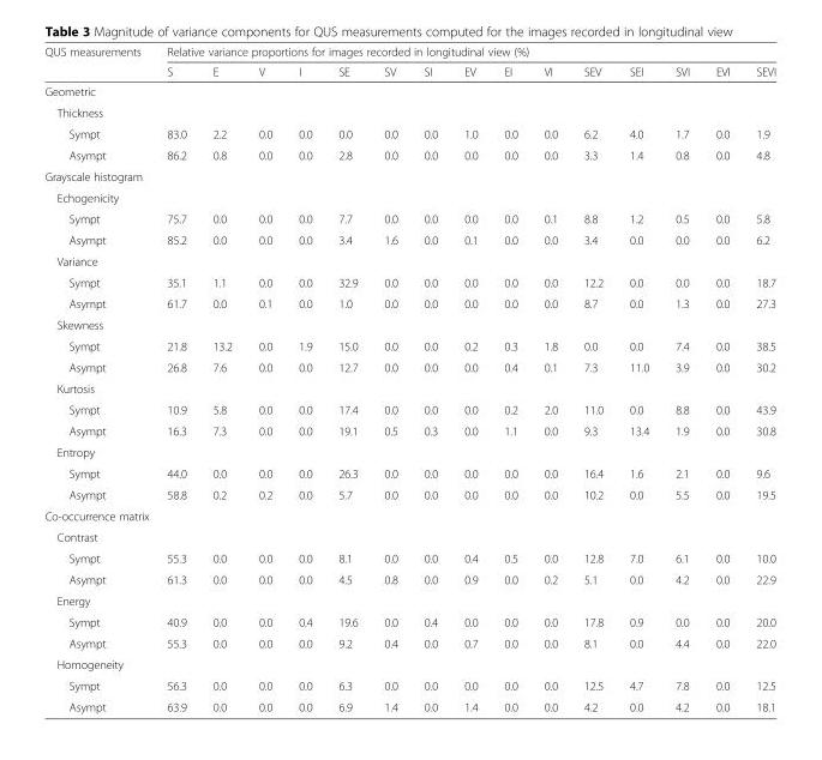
<table><thead><tr><td rowspan="2">QUS measurements</td><td colspan="15">Relative variance proportions for images recorded in longitudinal view (%)</td></tr><tr><td>S</td><td>E</td><td>V</td><td>I</td><td>SE</td><td>SV</td><td>SI</td><td>EV</td><td>EI</td><td>VI</td><td>SEV</td><td>SEI</td><td>SVI</td><td>EVI</td><td>SEVI</td></tr></thead><tbody><tr><td colspan="16">Geometric</td></tr><tr><td colspan="16">Thickness</td></tr><tr><td>Sympt</td><td>83.0</td><td>2.2</td><td>0.0</td><td>0.0</td><td>0.0</td><td>0.0</td><td>0.0</td><td>1.0</td><td>0.0</td><td>0.0</td><td>6.2</td><td>4.0</td><td>1.7</td><td>0.0</td><td>1.9</td></tr><tr><td>Asympt</td><td>86.2</td><td>0.8</td><td>0.0</td><td>0.0</td><td>2.8</td><td>0.0</td><td>0.0</td><td>0.0</td><td>0.0</td><td>0.0</td><td>3.3</td><td>1.4</td><td>0.8</td><td>0.0</td><td>4.8</td></tr><tr><td colspan="16">Grayscale histogram</td></tr><tr><td colspan="16">Echogenicity</td></tr><tr><td>Sympt</td><td>75.7</td><td>0.0</td><td>0.0</td><td>0.0</td><td>7.7</td><td>0.0</td><td>0.0</td><td>0.0</td><td>0.0</td><td>0.1</td><td>8.8</td><td>1.2</td><td>0.5</td><td>0.0</td><td>5.8</td></tr><tr><td>Asympt</td><td>85.2</td><td>0.0</td><td>0.0</td><td>0.0</td><td>3.4</td><td>1.6</td><td>0.0</td><td>0.1</td><td>0.0</td><td>0.0</td><td>3.4</td><td>0.0</td><td>0.0</td><td>0.0</td><td>6.2</td></tr><tr><td colspan="16">Variance</td></tr><tr><td>Sympt</td><td>35.1</td><td>1.1</td><td>0.0</td><td>0.0</td><td>32.9</td><td>0.0</td><td>0.0</td><td>0.0</td><td>0.0</td><td>0.0</td><td>12.2</td><td>0.0</td><td>0.0</td><td>0.0</td><td>18.7</td></tr><tr><td>Asympt</td><td>61.7</td><td>0.0</td><td>0.1</td><td>0.0</td><td>1.0</td><td>0.0</td><td>0.0</td><td>0.0</td><td>0.0</td><td>0.0</td><td>8.7</td><td>0.0</td><td>1.3</td><td>0.0</td><td>27.3</td></tr><tr><td colspan="16">Skewness</td></tr><tr><td>Sympt</td><td>21.8</td><td>13.2</td><td>0.0</td><td>1.9</td><td>15.0</td><td>0.0</td><td>0.0</td><td>0.2</td><td>0.3</td><td>1.8</td><td>0.0</td><td>0.0</td><td>7.4</td><td>0.0</td><td>38.5</td></tr><tr><td>Asympt</td><td>26.8</td><td>7.6</td><td>0.0</td><td>0.0</td><td>12.7</td><td>0.0</td><td>0.0</td><td>0.0</td><td>0.4</td><td>0.1</td><td>7.3</td><td>11.0</td><td>3.9</td><td>0.0</td><td>30.2</td></tr><tr><td colspan="16">Kurtosis</td></tr><tr><td>Sympt</td><td>10.9</td><td>5.8</td><td>0.0</td><td>0.0</td><td>17.4</td><td>0.0</td><td>0.0</td><td>0.0</td><td>0.2</td><td>2.0</td><td>11.0</td><td>0.0</td><td>8.8</td><td>0.0</td><td>43.9</td></tr><tr><td>Asympt</td><td>16.3</td><td>7.3</td><td>0.0</td><td>0.0</td><td>19.1</td><td>0.5</td><td>0.3</td><td>0.0</td><td>1.1</td><td>0.0</td><td>9.3</td><td>13.4</td><td>1.9</td><td>0.0</td><td>30.8</td></tr><tr><td colspan="16">Entropy</td></tr><tr><td>Sympt</td><td>44.0</td><td>0.0</td><td>0.0</td><td>0.0</td><td>26.3</td><td>0.0</td><td>0.0</td><td>0.0</td><td>0.0</td><td>0.0</td><td>16.4</td><td>1.6</td><td>2.1</td><td>0.0</td><td>9.6</td></tr><tr><td>Asympt</td><td>58.8</td><td>0.2</td><td>0.2</td><td>0.0</td><td>5.7</td><td>0.0</td><td>0.0</td><td>0.0</td><td>0.0</td><td>0.0</td><td>10.2</td><td>0.0</td><td>5.5</td><td>0.0</td><td>19.5</td></tr><tr><td colspan="16">Co-occurrence matrix</td></tr><tr><td colspan="16">Contrast</td></tr><tr><td>Sympt</td><td>55.3</td><td>0.0</td><td>0.0</td><td>0.0</td><td>8.1</td><td>0.0</td><td>0.0</td><td>0.4</td><td>0.5</td><td>0.0</td><td>12.8</td><td>7.0</td><td>6.1</td><td>0.0</td><td>10.0</td></tr><tr><td>Asympt</td><td>61.3</td><td>0.0</td><td>0.0</td><td>0.0</td><td>4.5</td><td>0.8</td><td>0.0</td><td>0.9</td><td>0.0</td><td>0.2</td><td>5.1</td><td>0.0</td><td>4.2</td><td>0.0</td><td>22.9</td></tr><tr><td colspan="16">Energy</td></tr><tr><td>Sympt</td><td>40.9</td><td>0.0</td><td>0.0</td><td>0.4</td><td>19.6</td><td>0.0</td><td>0.4</td><td>0.0</td><td>0.0</td><td>0.0</td><td>17.8</td><td>0.9</td><td>0.0</td><td>0.0</td><td>20.0</td></tr><tr><td>Asympt</td><td>55.3</td><td>0.0</td><td>0.0</td><td>0.0</td><td>9.2</td><td>0.4</td><td>0.0</td><td>0.7</td><td>0.0</td><td>0.0</td><td>8.1</td><td>0.0</td><td>4.4</td><td>0.0</td><td>22.0</td></tr><tr><td colspan="16">Homogeneity</td></tr><tr><td>Sympt</td><td>56.3</td><td>0.0</td><td>0.0</td><td>0.0</td><td>6.3</td><td>0.0</td><td>0.0</td><td>0.0</td><td>0.0</td><td>0.0</td><td>12.5</td><td>4.7</td><td>7.8</td><td>0.0</td><td>12.5</td></tr><tr><td>Asympt</td><td>63.9</td><td>0.0</td><td>0.0</td><td>0.0</td><td>6.9</td><td>1.4</td><td>0.0</td><td>1.4</td><td>0.0</td><td>0.0</td><td>4.2</td><td>0.0</td><td>4.2</td><td>0.0</td><td>18.1</td></tr></tbody></table>